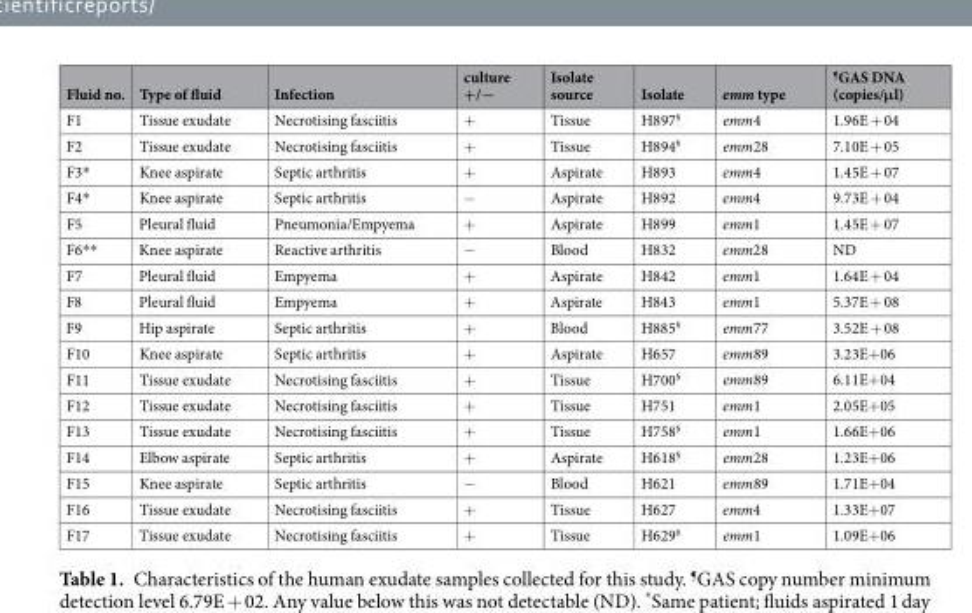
<table><thead><tr><td>Fluid no.</td><td>Type of fluid</td><td>Infection</td><td>culture +/−</td><td>Isolate source</td><td>Isolate</td><td>emm type</td><td><sup>¶</sup>GAS DNA (copies/µl)</td></tr></thead><tbody><tr><td>F1</td><td>Tissue exudate</td><td>Necrotising fasciitis</td><td>+</td><td>Tissue</td><td>H897<sup>§</sup></td><td>emm4</td><td>1.96E + 04</td></tr><tr><td>F2</td><td>Tissue exudate</td><td>Necrotising fasciitis</td><td>+</td><td>Tissue</td><td>H894<sup>§</sup></td><td>emm28</td><td>7.10E + 05</td></tr><tr><td>F3*</td><td>Knee aspirate</td><td>Septic arthritis</td><td>+</td><td>Aspirate</td><td>H893</td><td>emm4</td><td>1.45E + 07</td></tr><tr><td>F4*</td><td>Knee aspirate</td><td>Septic arthritis</td><td>−</td><td>Aspirate</td><td>H892</td><td>emm4</td><td>9.73E + 04</td></tr><tr><td>F5</td><td>Pleural fluid</td><td>Pneumonia/Empyema</td><td>+</td><td>Aspirate</td><td>H899</td><td>emm1</td><td>1.45E + 07</td></tr><tr><td>F6**</td><td>Knee aspirate</td><td>Reactive arthritis</td><td>−</td><td>Blood</td><td>H832</td><td>emm28</td><td>ND</td></tr><tr><td>F7</td><td>Pleural fluid</td><td>Empyema</td><td>+</td><td>Aspirate</td><td>H842</td><td>emm1</td><td>1.64E + 04</td></tr><tr><td>F8</td><td>Pleural fluid</td><td>Empyema</td><td>+</td><td>Aspirate</td><td>H843</td><td>emm1</td><td>5.37E + 08</td></tr><tr><td>F9</td><td>Hip aspirate</td><td>Septic arthritis</td><td>+</td><td>Blood</td><td>H885<sup>§</sup></td><td>emm77</td><td>3.52E + 08</td></tr><tr><td>F10</td><td>Knee aspirate</td><td>Septic arthritis</td><td>+</td><td>Aspirate</td><td>H657</td><td>emm89</td><td>3.23E+06</td></tr><tr><td>F11</td><td>Tissue exudate</td><td>Necrotising fasciitis</td><td>+</td><td>Tissue</td><td>H700<sup>§</sup></td><td>emm89</td><td>6.11E+04</td></tr><tr><td>F12</td><td>Tissue exudate</td><td>Necrotising fasciitis</td><td>+</td><td>Tissue</td><td>H751</td><td>emm1</td><td>2.05E+05</td></tr><tr><td>F13</td><td>Tissue exudate</td><td>Necrotising fasciitis</td><td>+</td><td>Tissue</td><td>H758<sup>§</sup></td><td>emm1</td><td>1.66E+06</td></tr><tr><td>F14</td><td>Elbow aspirate</td><td>Septic arthritis</td><td>+</td><td>Aspirate</td><td>H618<sup>§</sup></td><td>emm28</td><td>1.23E+06</td></tr><tr><td>F15</td><td>Knee aspirate</td><td>Septic arthritis</td><td>−</td><td>Blood</td><td>H621</td><td>emm89</td><td>1.71E+04</td></tr><tr><td>F16</td><td>Tissue exudate</td><td>Necrotising fasciitis</td><td>+</td><td>Tissue</td><td>H627</td><td>emm4</td><td>1.33E+07</td></tr><tr><td>F17</td><td>Tissue exudate</td><td>Necrotising fasciitis</td><td>+</td><td>Tissue</td><td>H629<sup>§</sup></td><td>emm1</td><td>1.09E+06</td></tr></tbody></table>